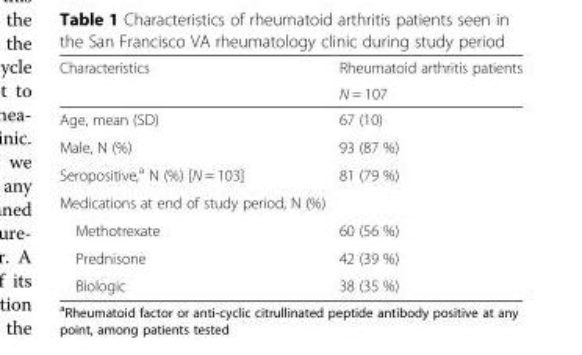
<table><thead><tr><td rowspan="2">Characteristics</td><td rowspan="2">Rheumatoid arthritis patients N = 107</td></tr><tr></tr></thead><tbody><tr><td>Age, mean (SD)</td><td>67 (10)</td></tr><tr><td>Male, N (%)</td><td>93 (87 %)</td></tr><tr><td>Seropositive,<sup>a</sup> N (%) [N = 103]</td><td>81 (79 %)</td></tr><tr><td colspan="2">Medications at end of study period, N (%)</td></tr><tr><td>Methotrexate</td><td>60 (56 %)</td></tr><tr><td>Prednisone</td><td>42 (39 %)</td></tr><tr><td>Biologic</td><td>38 (35 %)</td></tr></tbody></table>